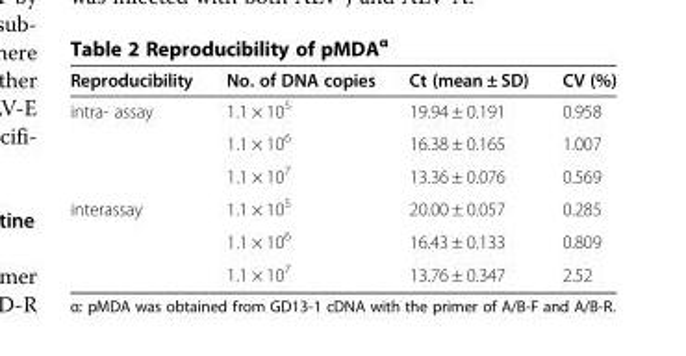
<table><thead><tr><td>Reproducibility</td><td>No. of DNA copies</td><td>Ct (mean ± SD)</td><td>CV (%)</td></tr></thead><tbody><tr><td rowspan="3">intra- assay</td><td>1.1 × 10<sup>5</sup></td><td>19.94 ± 0.191</td><td>0.958</td></tr><tr><td>1.1 × 10<sup>6</sup></td><td>16.38 ± 0.165</td><td>1.007</td></tr><tr><td>1.1 × 10<sup>7</sup></td><td>13.36 ± 0.076</td><td>0.569</td></tr><tr><td rowspan="3">interassay</td><td>1.1 × 10<sup>5</sup></td><td>20.00 ± 0.057</td><td>0.285</td></tr><tr><td>1.1 × 10<sup>6</sup></td><td>16.43 ± 0.133</td><td>0.809</td></tr><tr><td>1.1 × 10<sup>7</sup></td><td>13.76 ± 0.347</td><td>2.52</td></tr></tbody></table>